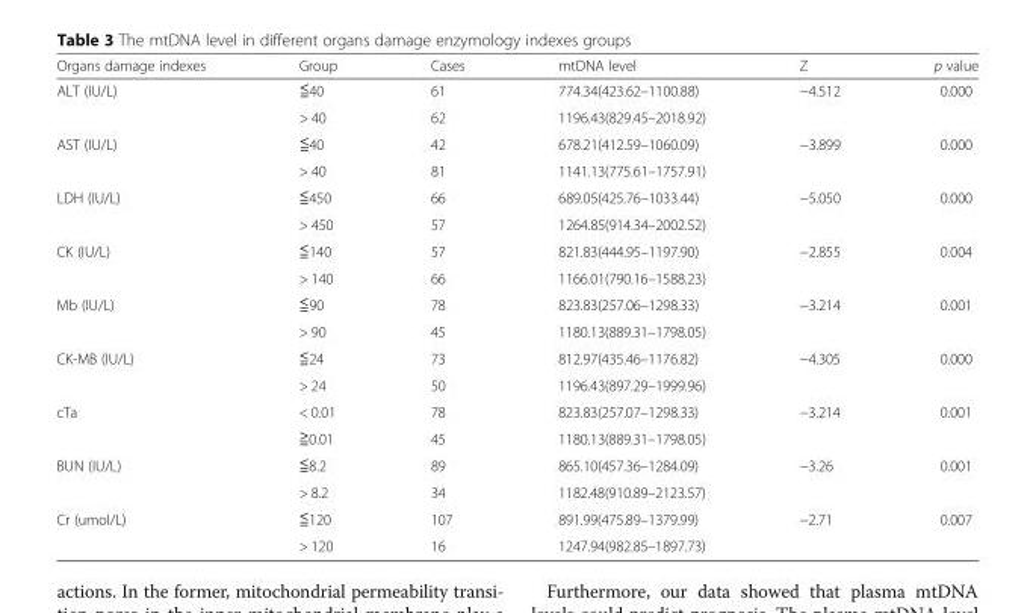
<table><thead><tr><td>Organs damage indexes</td><td>Group</td><td>Cases</td><td>mtDNA level</td><td>Z</td><td>p value</td></tr></thead><tbody><tr><td rowspan="2">ALT (IU/L)</td><td>≦40</td><td>61</td><td>774.34(423.62–1100.88)</td><td rowspan="2">−4.512</td><td rowspan="2">0.000</td></tr><tr><td>&gt; 40</td><td>62</td><td>1196.43(829.45–2018.92)</td></tr><tr><td rowspan="2">AST (IU/L)</td><td>≦40</td><td>42</td><td>678.21(412.59–1060.09)</td><td rowspan="2">−3.899</td><td rowspan="2">0.000</td></tr><tr><td>&gt; 40</td><td>81</td><td>1141.13(775.61–1757.91)</td></tr><tr><td rowspan="2">LDH (IU/L)</td><td>≦450</td><td>66</td><td>689.05(425.76–1033.44)</td><td rowspan="2">−5.050</td><td rowspan="2">0.000</td></tr><tr><td>&gt; 450</td><td>57</td><td>1264.85(914.34–2002.52)</td></tr><tr><td rowspan="2">CK (IU/L)</td><td>≦140</td><td>57</td><td>821.83(444.95–1197.90)</td><td rowspan="2">−2.855</td><td rowspan="2">0.004</td></tr><tr><td>&gt; 140</td><td>66</td><td>1166.01(790.16–1588.23)</td></tr><tr><td rowspan="2">Mb (IU/L)</td><td>≦90</td><td>78</td><td>823.83(257.06–1298.33)</td><td rowspan="2">−3.214</td><td rowspan="2">0.001</td></tr><tr><td>&gt; 90</td><td>45</td><td>1180.13(889.31–1798.05)</td></tr><tr><td rowspan="2">CK-MB (IU/L)</td><td>≦24</td><td>73</td><td>812.97(435.46–1176.82)</td><td rowspan="2">−4.305</td><td rowspan="2">0.000</td></tr><tr><td>&gt; 24</td><td>50</td><td>1196.43(897.29–1999.96)</td></tr><tr><td rowspan="2">cTa</td><td>&lt; 0.01</td><td>78</td><td>823.83(257.07–1298.33)</td><td rowspan="2">−3.214</td><td rowspan="2">0.001</td></tr><tr><td>≧0.01</td><td>45</td><td>1180.13(889.31–1798.05)</td></tr><tr><td rowspan="2">BUN (IU/L)</td><td>≦8.2</td><td>89</td><td>865.10(457.36–1284.09)</td><td rowspan="2">−3.26</td><td rowspan="2">0.001</td></tr><tr><td>&gt; 8.2</td><td>34</td><td>1182.48(910.89–2123.57)</td></tr><tr><td rowspan="2">Cr (umol/L)</td><td>≦120</td><td>107</td><td>891.99(475.89–1379.99)</td><td rowspan="2">−2.71</td><td rowspan="2">0.007</td></tr><tr><td>&gt; 120</td><td>16</td><td>1247.94(982.85–1897.73)</td></tr></tbody></table>